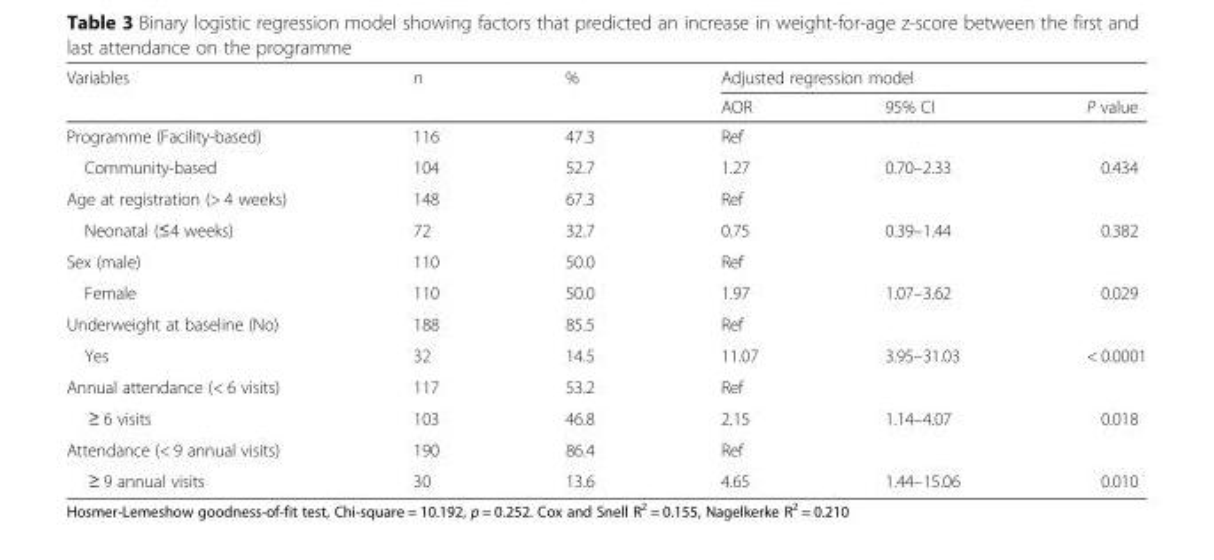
<table><thead><tr><td rowspan="2">Variables</td><td rowspan="2">n</td><td rowspan="2">%</td><td colspan="3">Adjusted regression model</td></tr><tr><td>AOR</td><td>95% CI</td><td>P value</td></tr></thead><tbody><tr><td>Programme (Facility-based)</td><td>116</td><td>47.3</td><td>Ref</td><td></td><td></td></tr><tr><td>Community-based</td><td>104</td><td>52.7</td><td>1.27</td><td>0.70–2.33</td><td>0.434</td></tr><tr><td>Age at registration (&gt; 4 weeks)</td><td>148</td><td>67.3</td><td>Ref</td><td></td><td></td></tr><tr><td>Neonatal (≤4 weeks)</td><td>72</td><td>32.7</td><td>0.75</td><td>0.39–1.44</td><td>0.382</td></tr><tr><td>Sex (male)</td><td>110</td><td>50.0</td><td>Ref</td><td></td><td></td></tr><tr><td>Female</td><td>110</td><td>50.0</td><td>1.97</td><td>1.07–3.62</td><td>0.029</td></tr><tr><td>Underweight at baseline (No)</td><td>188</td><td>85.5</td><td>Ref</td><td></td><td></td></tr><tr><td>Yes</td><td>32</td><td>14.5</td><td>11.07</td><td>3.95–31.03</td><td>&lt; 0.0001</td></tr><tr><td>Annual attendance (&lt; 6 visits)</td><td>117</td><td>53.2</td><td>Ref</td><td></td><td></td></tr><tr><td>≥ 6 visits</td><td>103</td><td>46.8</td><td>2.15</td><td>1.14–4.07</td><td>0.018</td></tr><tr><td>Attendance (&lt; 9 annual visits)</td><td>190</td><td>86.4</td><td>Ref</td><td></td><td></td></tr><tr><td>≥ 9 annual visits</td><td>30</td><td>13.6</td><td>4.65</td><td>1.44–15.06</td><td>0.010</td></tr></tbody></table>